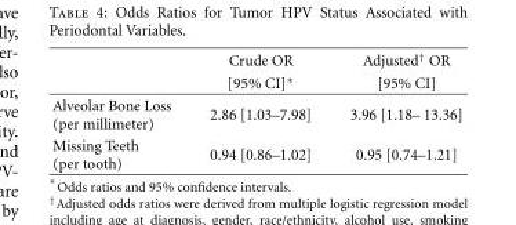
<table><thead><tr><td rowspan="2"></td><td rowspan="2">Crude OR [95% CI]∗</td><td rowspan="2">Adjusted† OR [95% CI]</td></tr><tr></tr></thead><tbody><tr><td>Alveolar Bone Loss (per millimeter)</td><td>2.86 [1.03–7.98]</td><td>3.96 [1.18– 13.36]</td></tr><tr><td>Missing Teeth (per tooth)</td><td>0.94 [0.86–1.02]</td><td>0.95 [0.74–1.21]</td></tr></tbody></table>